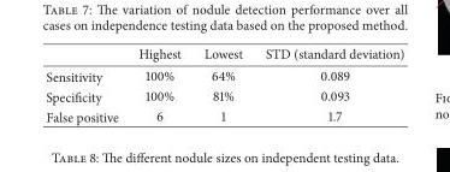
<table><thead><tr><td></td><td>Highest</td><td>Lowest</td><td>STD (standard deviation)</td></tr></thead><tbody><tr><td>Sensitivity</td><td>100%</td><td>64%</td><td>0.089</td></tr><tr><td>Specificity</td><td>100%</td><td>81%</td><td>0.093</td></tr><tr><td>False positive</td><td>6</td><td>1</td><td>1.7</td></tr></tbody></table>